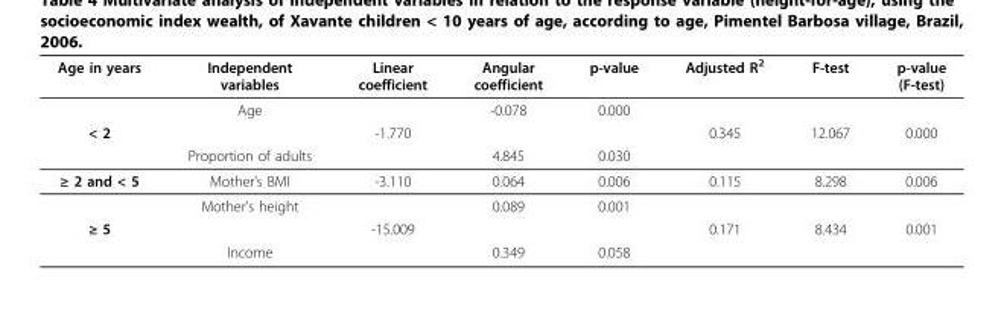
<table><thead><tr><td>Age in years</td><td>Independent variables</td><td>Linear coefficient</td><td>Angular coefficient</td><td>p-value</td><td>Adjusted R<sup>2</sup></td><td>F-test</td><td>p-value (F-test)</td></tr></thead><tbody><tr><td></td><td>Age</td><td></td><td>-0.078</td><td>0.000</td><td></td><td></td><td></td></tr><tr><td rowspan="2">&lt; 2</td><td></td><td>-1.770</td><td></td><td></td><td>0.345</td><td>12.067</td><td>0.000</td></tr><tr><td>Proportion of adults</td><td></td><td>4.845</td><td>0.030</td><td></td><td></td><td></td></tr><tr><td rowspan="2">≥ 2 and &lt; 5</td><td>Mother’s BMI</td><td>-3.110</td><td>0.064</td><td>0.006</td><td>0.115</td><td>8.298</td><td>0.006</td></tr><tr><td>Mother’s height</td><td></td><td>0.089</td><td>0.001</td><td></td><td></td><td></td></tr><tr><td rowspan="2">≥ 5</td><td></td><td>-15.009</td><td></td><td></td><td>0.171</td><td>8.434</td><td>0.001</td></tr><tr><td>Income</td><td></td><td>0.349</td><td>0.058</td><td></td><td></td><td></td></tr></tbody></table>